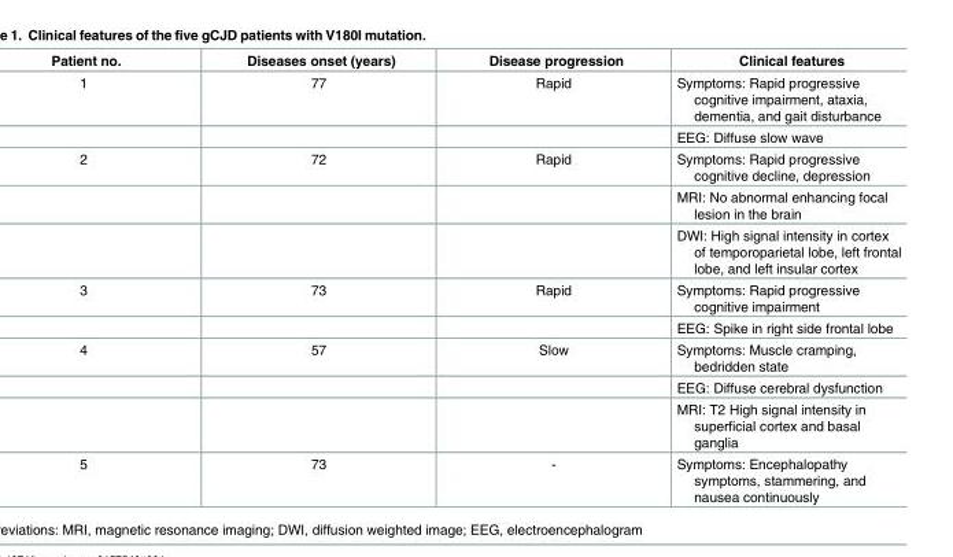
<table><thead><tr><td>Patient no.</td><td>Diseases onset (years)</td><td>Disease progression</td><td>Clinical features</td></tr></thead><tbody><tr><td rowspan="2">1</td><td>77</td><td>Rapid</td><td>Symptoms: Rapid progressive cognitive impairment, ataxia, dementia, and gait disturbance</td></tr><tr><td></td><td></td><td>EEG: Diffuse slow wave</td></tr><tr><td rowspan="3">2</td><td>72</td><td>Rapid</td><td>Symptoms: Rapid progressive cognitive decline, depression</td></tr><tr><td></td><td></td><td>MRI: No abnormal enhancing focal lesion in the brain</td></tr><tr><td></td><td></td><td>DWI: High signal intensity in cortex of temporoparietal lobe, left frontal lobe, and left insular cortex</td></tr><tr><td rowspan="2">3</td><td>73</td><td>Rapid</td><td>Symptoms: Rapid progressive cognitive impairment</td></tr><tr><td></td><td></td><td>EEG: Spike in right side frontal lobe</td></tr><tr><td rowspan="3">4</td><td>57</td><td>Slow</td><td>Symptoms: Muscle cramping, bedridden state</td></tr><tr><td></td><td></td><td>EEG: Diffuse cerebral dysfunction</td></tr><tr><td></td><td></td><td>MRI: T2 High signal intensity in superficial cortex and basal ganglia</td></tr><tr><td>5</td><td>73</td><td>-</td><td>Symptoms: Encephalopathy symptoms, stammering, and nausea continuously</td></tr></tbody></table>